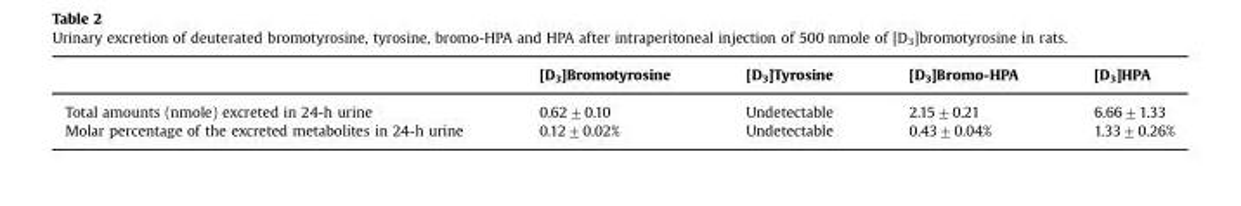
<table><thead><tr><td></td><td>[D<sub>3</sub>]Bromotyrosine</td><td>[D<sub>3</sub>]Tyrosine</td><td>[D<sub>3</sub>]Bromo-HPA</td><td>[D<sub>3</sub>]HPA</td></tr></thead><tbody><tr><td>Total amounts (nmole) excreted in 24-h urine</td><td>0.62±0.10</td><td>Undetectable</td><td>2.15±0.21</td><td>6.66±1.33</td></tr><tr><td>Molar percentage of the excreted metabolites in 24-h urine</td><td>0.12±0.02%</td><td>Undetectable</td><td>0.43±0.04%</td><td>1.33±0.26%</td></tr></tbody></table>